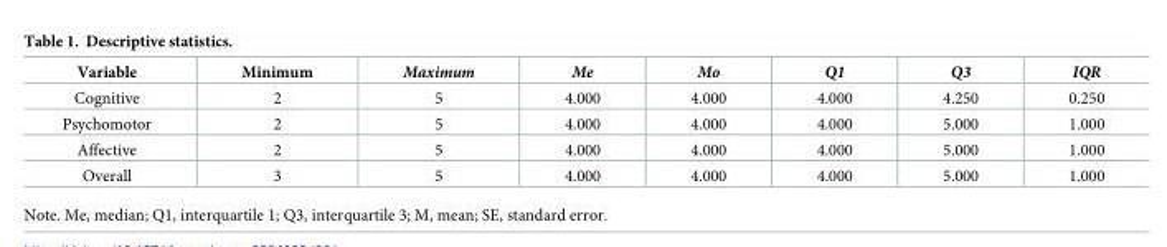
<table><thead><tr><td>Variable</td><td>Minimum</td><td>Maximum</td><td>Me</td><td>Mo</td><td>Q1</td><td>Q3</td><td>IQR</td></tr></thead><tbody><tr><td>Cognitive</td><td>2</td><td>5</td><td>4.000</td><td>4.000</td><td>4.000</td><td>4.250</td><td>0.250</td></tr><tr><td>Psychomotor</td><td>2</td><td>5</td><td>4.000</td><td>4.000</td><td>4.000</td><td>5.000</td><td>1.000</td></tr><tr><td>Affective</td><td>2</td><td>5</td><td>4.000</td><td>4.000</td><td>4.000</td><td>5.000</td><td>1.000</td></tr><tr><td>Overall</td><td>3</td><td>5</td><td>4.000</td><td>4.000</td><td>4.000</td><td>5.000</td><td>1.000</td></tr></tbody></table>